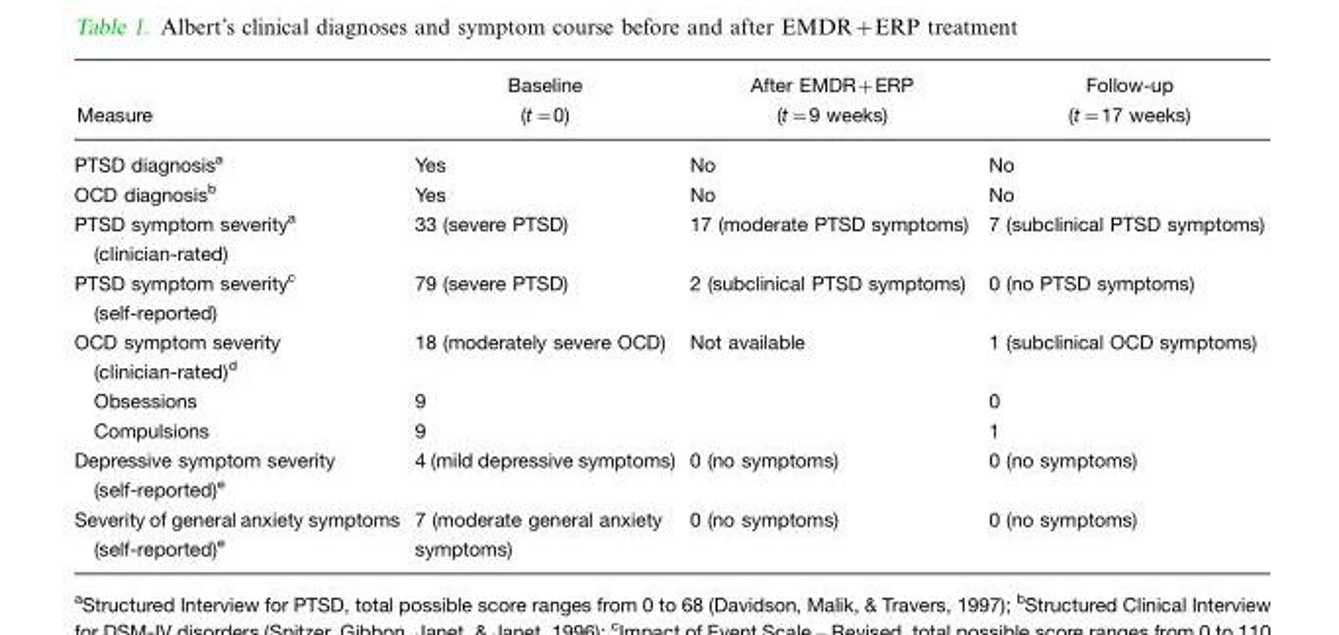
<table><thead><tr><td>Measure</td><td>Baseline (t=0)</td><td>After EMDR+ERP (t=9 weeks)</td><td>Follow-up (t=17 weeks)</td></tr></thead><tbody><tr><td>PTSD diagnosis<sup>a</sup></td><td>Yes</td><td>No</td><td>No</td></tr><tr><td>OCD diagnosis<sup>b</sup></td><td>Yes</td><td>No</td><td>No</td></tr><tr><td>PTSD symptom severity<sup>a</sup> (clinician-rated)</td><td>33 (severe PTSD)</td><td>17 (moderate PTSD symptoms)</td><td>7 (subclinical PTSD symptoms)</td></tr><tr><td>PTSD symptom severity<sup>c</sup> (self-reported)</td><td>79 (severe PTSD)</td><td>2 (subclinical PTSD symptoms)</td><td>0 (no PTSD symptoms)</td></tr><tr><td>OCD symptom severity (clinician-rated)<sup>d</sup></td><td>18 (moderately severe OCD)</td><td>Not available</td><td>1 (subclinical OCD symptoms)</td></tr><tr><td>Obsessions</td><td>9</td><td></td><td>0</td></tr><tr><td>Compulsions</td><td>9</td><td></td><td>1</td></tr><tr><td>Depressive symptom severity (self-reported)<sup>e</sup></td><td>4 (mild depressive symptoms)</td><td>0 (no symptoms)</td><td>0 (no symptoms)</td></tr><tr><td>Severity of general anxiety symptoms (self-reported)<sup>e</sup></td><td>7 (moderate general anxiety symptoms)</td><td>0 (no symptoms)</td><td>0 (no symptoms)</td></tr></tbody></table>